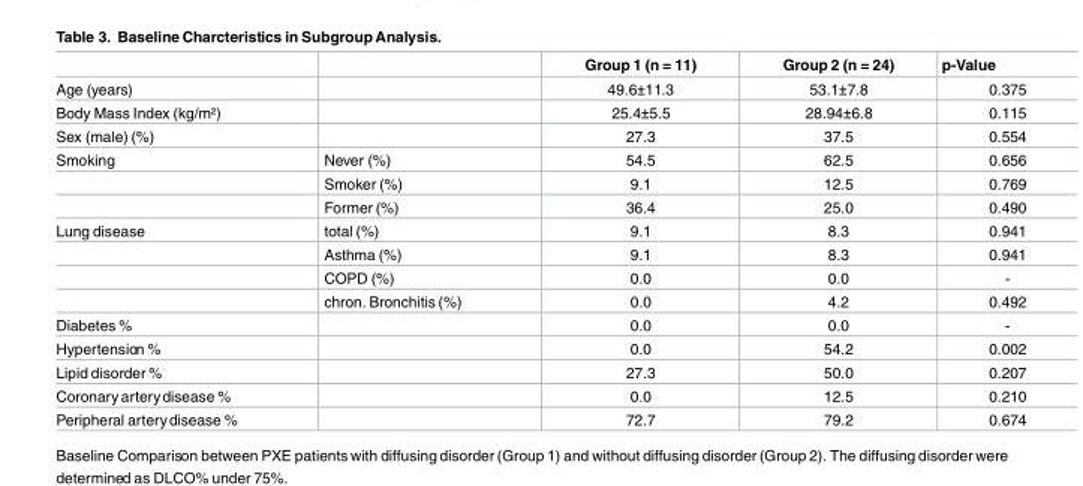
<table><thead><tr><td></td><td></td><td>Group 1 (n = 11)</td><td>Group 2 (n = 24)</td><td>p-Value</td></tr></thead><tbody><tr><td>Age (years)</td><td></td><td>49.6±11.3</td><td>53.1±7.8</td><td>0.375</td></tr><tr><td>Body Mass Index (kg/m²)</td><td></td><td>25.4±5.5</td><td>28.94±6.8</td><td>0.115</td></tr><tr><td>Sex (male) (%)</td><td></td><td>27.3</td><td>37.5</td><td>0.554</td></tr><tr><td rowspan="3">Smoking</td><td>Never (%)</td><td>54.5</td><td>62.5</td><td>0.656</td></tr><tr><td>Smoker (%)</td><td>9.1</td><td>12.5</td><td>0.769</td></tr><tr><td>Former (%)</td><td>36.4</td><td>25.0</td><td>0.490</td></tr><tr><td rowspan="4">Lung disease</td><td>total (%)</td><td>9.1</td><td>8.3</td><td>0.941</td></tr><tr><td>Asthma (%)</td><td>9.1</td><td>8.3</td><td>0.941</td></tr><tr><td>COPD (%)</td><td>0.0</td><td>0.0</td><td>-</td></tr><tr><td>chron. Bronchitis (%)</td><td>0.0</td><td>4.2</td><td>0.492</td></tr><tr><td>Diabetes %</td><td></td><td>0.0</td><td>0.0</td><td>-</td></tr><tr><td>Hypertension %</td><td></td><td>0.0</td><td>54.2</td><td>0.002</td></tr><tr><td>Lipid disorder %</td><td></td><td>27.3</td><td>50.0</td><td>0.207</td></tr><tr><td>Coronaryarterydisease %</td><td></td><td>0.0</td><td>12.5</td><td>0.210</td></tr><tr><td>Peripheral arterydisease %</td><td></td><td>72.7</td><td>79.2</td><td>0.674</td></tr></tbody></table>